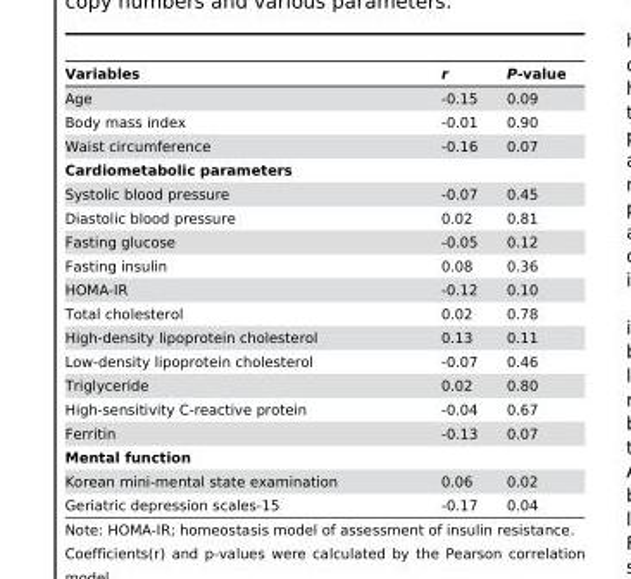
<table><thead><tr><td>Variables</td><td>r</td><td>P-value</td></tr></thead><tbody><tr><td>Age</td><td>-0.15</td><td>0.09</td></tr><tr><td>Body mass index</td><td>-0.01</td><td>0.90</td></tr><tr><td>Waist circumference</td><td>-0.16</td><td>0.07</td></tr><tr><td colspan="3">Cardiometabolic parameters</td></tr><tr><td>Systolic blood pressure</td><td>-0.07</td><td>0.45</td></tr><tr><td>Diastolic blood pressure</td><td>0.02</td><td>0.81</td></tr><tr><td>Fasting glucose</td><td>-0.05</td><td>0.12</td></tr><tr><td>Fasting insulin</td><td>0.08</td><td>0.36</td></tr><tr><td>HOMA-IR</td><td>-0.12</td><td>0.10</td></tr><tr><td>Total cholesterol</td><td>0.02</td><td>0.78</td></tr><tr><td>High-density lipoprotein cholesterol</td><td>0.13</td><td>0.11</td></tr><tr><td>Low-density lipoprotein cholesterol</td><td>-0.07</td><td>0.46</td></tr><tr><td>Triglyceride</td><td>0.02</td><td>0.80</td></tr><tr><td>High-sensitivity C-reactive protein</td><td>-0.04</td><td>0.67</td></tr><tr><td>Ferritin</td><td>-0.13</td><td>0.07</td></tr><tr><td colspan="3">Mental function</td></tr><tr><td>Korean mini-mental state examination</td><td>0.06</td><td>0.02</td></tr><tr><td>Geriatric depression scales-15</td><td>-0.17</td><td>0.04</td></tr></tbody></table>